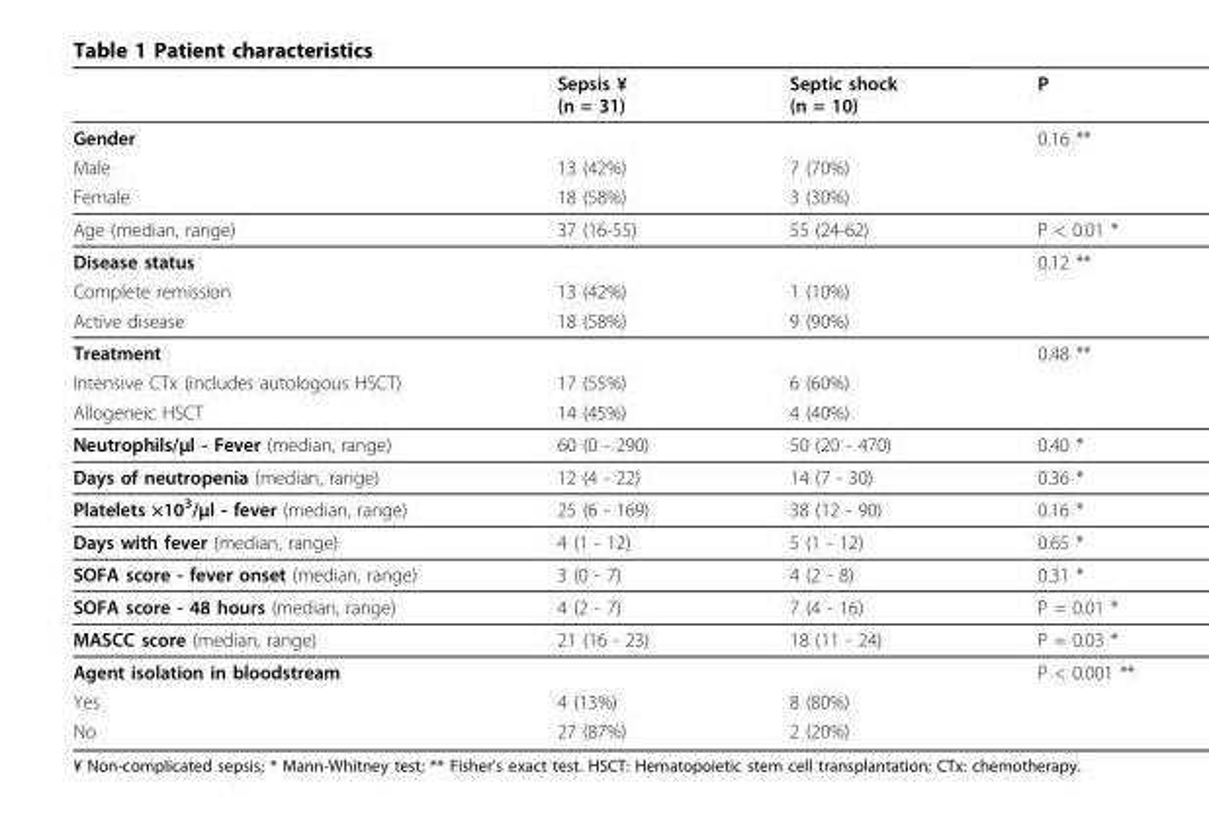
<table><thead><tr><td></td><td>Sepsis ¥ (n = 31)</td><td>Septic shock (n = 10)</td><td>P</td></tr></thead><tbody><tr><td>Gender</td><td></td><td></td><td>0.16 **</td></tr><tr><td>Male</td><td>13 (42%)</td><td>7 (70%)</td><td></td></tr><tr><td>Female</td><td>18 (58%)</td><td>3 (30%)</td><td></td></tr><tr><td>Age (median, range)</td><td>37 (16-55)</td><td>55 (24-62)</td><td>P &lt; 0.01 *</td></tr><tr><td>Disease status</td><td></td><td></td><td>0.12 **</td></tr><tr><td>Complete remission</td><td>13 (42%)</td><td>1 (10%)</td><td></td></tr><tr><td>Active disease</td><td>18 (58%)</td><td>9 (90%)</td><td></td></tr><tr><td>Treatment</td><td></td><td></td><td>0.48 **</td></tr><tr><td>Intensive CTx (includes autologous HSCT)</td><td>17 (55%)</td><td>6 (60%)</td><td></td></tr><tr><td>Allogeneic HSCT</td><td>14 (45%)</td><td>4 (40%)</td><td></td></tr><tr><td>Neutrophils/μl - Fever (median, range)</td><td>60 (0 - 290)</td><td>50 (20 - 470)</td><td>0.40 *</td></tr><tr><td>Days of neutropenia (median, range)</td><td>12 (4 - 22)</td><td>14 (7 - 30)</td><td>0.36 *</td></tr><tr><td>Platelets ×10<sup>3</sup>/μl - fever (median, range)</td><td>25 (6 - 169)</td><td>38 (12 - 90)</td><td>0.16 *</td></tr><tr><td>Days with fever (median, range)</td><td>4 (1 - 12)</td><td>5 (1 - 12)</td><td>0.65 *</td></tr><tr><td>SOFA score - fever onset (median, range)</td><td>3 (0 - 7)</td><td>4 (2 - 8)</td><td>0.31 *</td></tr><tr><td>SOFA score - 48 hours (median, range)</td><td>4 (2 - 7)</td><td>7 (4 - 16)</td><td>P = 0.01 *</td></tr><tr><td>MASCC score (median, range)</td><td>21 (16 - 23)</td><td>18 (11 - 24)</td><td>P = 0.03 *</td></tr><tr><td>Agent isolation in bloodstream</td><td></td><td></td><td>P &lt; 0.001 **</td></tr><tr><td>Yes</td><td>4 (13%)</td><td>8 (80%)</td><td></td></tr><tr><td>No</td><td>27 (87%)</td><td>2 (20%)</td><td></td></tr></tbody></table>